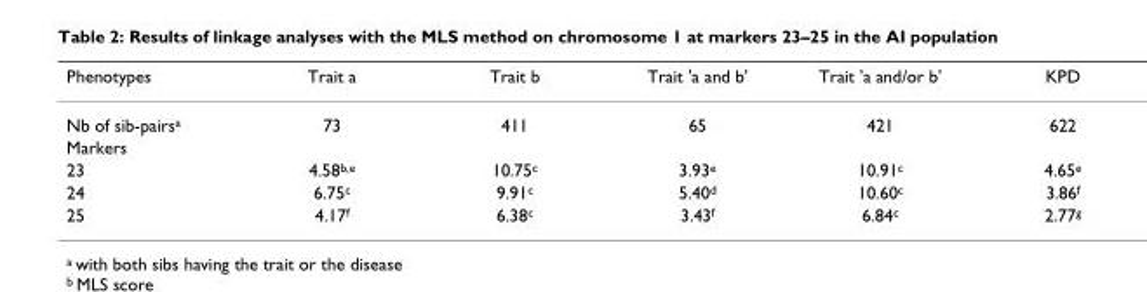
<table><thead><tr><td>Phenotypes</td><td>Trait a</td><td>Trait b</td><td>Trait &#x27;a and b&#x27;</td><td>Trait &#x27;a and/or b&#x27;</td><td>KPD</td></tr></thead><tbody><tr><td>Nb of sib-pairsa</td><td>73</td><td>411</td><td>65</td><td>421</td><td>622</td></tr><tr><td colspan="6">Markers</td></tr><tr><td>23</td><td>4.58b,e</td><td>10.75c</td><td>3.93e</td><td>10.91c</td><td>4.65e</td></tr><tr><td>24</td><td>6.75c</td><td>9.91c</td><td>5.40d</td><td>10.60c</td><td>3.86f</td></tr><tr><td>25</td><td>4.17f</td><td>6.38c</td><td>3.43f</td><td>6.84c</td><td>2.77g</td></tr></tbody></table>